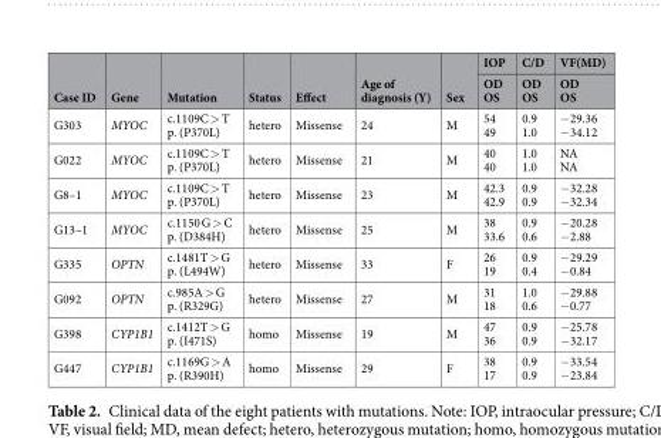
<table><thead><tr><td rowspan="2">Case ID</td><td rowspan="2">Gene</td><td rowspan="2">Mutation</td><td rowspan="2">Status</td><td rowspan="2">Effect</td><td rowspan="2">Age of diagnosis (Y)</td><td rowspan="2">Sex</td><td rowspan="2">IOP OD OS</td><td rowspan="2">C/D OD OS</td><td rowspan="2">VF(MD) OD OS</td></tr><tr></tr></thead><tbody><tr><td>G303</td><td>MYOC</td><td>c.1109C &gt; T p. (P370L)</td><td>hetero</td><td>Missense</td><td>24</td><td>M</td><td>54 49</td><td>0.9 1.0</td><td>−29.36 −34.12</td></tr><tr><td>G022</td><td>MYOC</td><td>c.1109C &gt; T p. (P370L)</td><td>hetero</td><td>Missense</td><td>21</td><td>M</td><td>40 40</td><td>1.0 1.0</td><td>NA NA</td></tr><tr><td>G8–1</td><td>MYOC</td><td>c.1109C &gt; T p. (P370L)</td><td>hetero</td><td>Missense</td><td>23</td><td>M</td><td>42.3 42.9</td><td>0.9 0.9</td><td>−32.28 −32.34</td></tr><tr><td>G13–1</td><td>MYOC</td><td>c.1150 G &gt; C p. (D384H)</td><td>hetero</td><td>Missense</td><td>25</td><td>M</td><td>38 33.6</td><td>0.9 0.6</td><td>−20.28 −2.88</td></tr><tr><td>G335</td><td>OPTN</td><td>c.1481T &gt; G p. (L494W)</td><td>hetero</td><td>Missense</td><td>33</td><td>F</td><td>26 19</td><td>0.9 0.4</td><td>−29.29 −0.84</td></tr><tr><td>G092</td><td>OPTN</td><td>c.985A &gt; G p. (R329G)</td><td>hetero</td><td>Missense</td><td>27</td><td>M</td><td>31 18</td><td>1.0 0.6</td><td>−29.88 −0.77</td></tr><tr><td>G398</td><td>CYP1B1</td><td>c.1412T &gt; G p. (I471S)</td><td>homo</td><td>Missense</td><td>19</td><td>M</td><td>47 36</td><td>0.9 0.9</td><td>−25.78 −32.17</td></tr><tr><td>G447</td><td>CYP1B1</td><td>c.1169G &gt; A p. (R390H)</td><td>homo</td><td>Missense</td><td>29</td><td>F</td><td>38 17</td><td>0.9 0.9</td><td>−33.54 −23.84</td></tr></tbody></table>